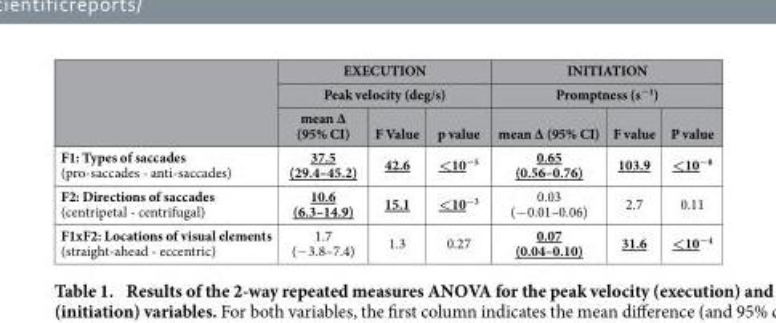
<table><thead><tr><td rowspan="3"></td><td rowspan="2" colspan="3">EXECUTION Peak velocity (deg/s)</td><td rowspan="2" colspan="3">INITIATION Promptness (s<sup>−1</sup>)</td></tr><tr></tr><tr><td>mean Δ (95% CI)</td><td>F Value</td><td>p value</td><td>mean Δ (95% CI)</td><td>F value</td><td>P value</td></tr></thead><tbody><tr><td>F1: Types of saccades (pro-saccades - anti-saccades)</td><td>37.5 (29.4–45.2)</td><td>42.6</td><td>&lt;10<sup>−5</sup></td><td>0.65 (0.56–0.76)</td><td>103.9</td><td>&lt;10<sup>−8</sup></td></tr><tr><td>F2: Directions of saccades (centripetal - centrifugal)</td><td>10.6 (6.3–14.9)</td><td>15.1</td><td>&lt;10<sup>−3</sup></td><td>0.03 (− 0.01–0.06)</td><td>2.7</td><td>0.11</td></tr><tr><td>F1xF2: Locations of visual elements (straight-ahead - eccentric)</td><td>1.7 (− 3.8–7.4)</td><td>1.3</td><td>0.27</td><td>0.07 (0.04–0.10)</td><td>31.6</td><td>&lt;10<sup>−4</sup></td></tr></tbody></table>